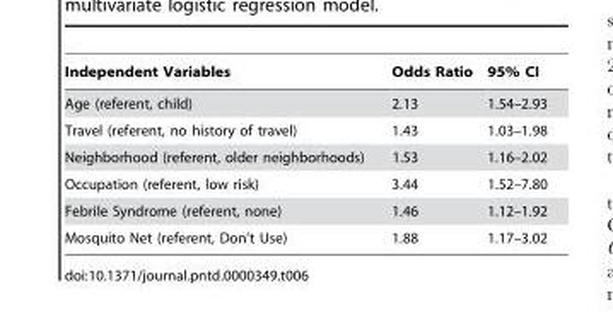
<table><thead><tr><td>Independent Variables</td><td>Odds Ratio</td><td>95% CI</td></tr></thead><tbody><tr><td>Age (referent, child)</td><td>2.13</td><td>1.54–2.93</td></tr><tr><td>Travel (referent, no history of travel)</td><td>1.43</td><td>1.03–1.98</td></tr><tr><td>Neighborhood (referent, older neighborhoods)</td><td>1.53</td><td>1.16–2.02</td></tr><tr><td>Occupation (referent, low risk)</td><td>3.44</td><td>1.52–7.80</td></tr><tr><td>Febrile Syndrome (referent, none)</td><td>1.46</td><td>1.12–1.92</td></tr><tr><td>Mosquito Net (referent, Don’t Use)</td><td>1.88</td><td>1.17–3.02</td></tr></tbody></table>